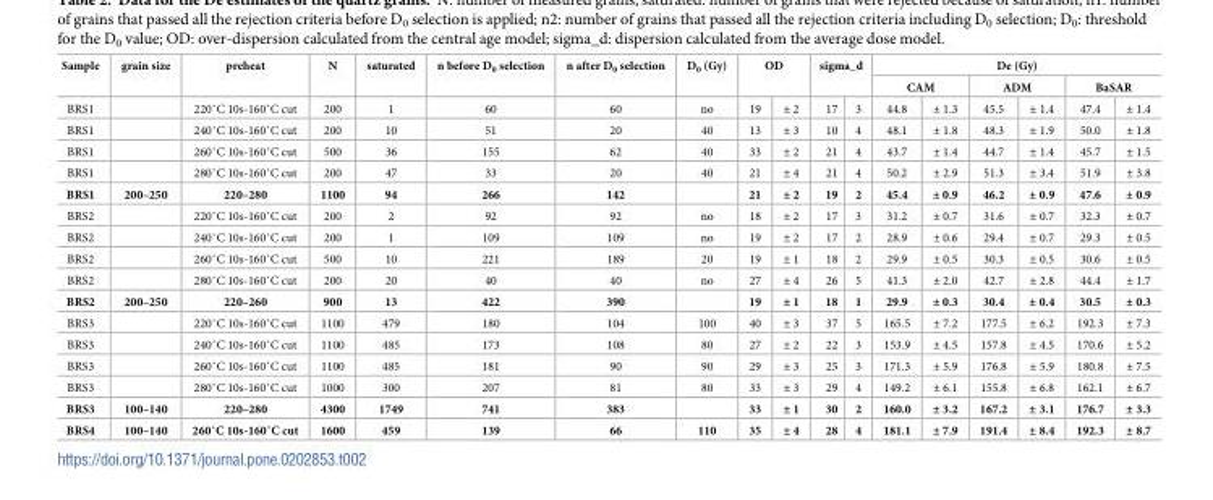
<table><thead><tr><td rowspan="3">Sample BRS1</td><td rowspan="3">grain size</td><td rowspan="3">preheat 220˚C 10s-160˚C cut</td><td rowspan="3">N 200</td><td rowspan="3">saturated 1</td><td rowspan="3">n before D<sub>0</sub> selection 60</td><td rowspan="3">n after D<sub>0</sub> selection 60</td><td rowspan="3">D<sub>0</sub> (Gy) no</td><td rowspan="2" colspan="2">OD</td><td rowspan="2" colspan="2">sigma_d</td><td colspan="6">De (Gy)</td></tr><tr><td colspan="2">CAM</td><td colspan="2">ADM</td><td colspan="2">BaSAR</td></tr><tr><td>19</td><td>± 2</td><td>17</td><td>3</td><td>44.8</td><td>± 1.3</td><td>45.5</td><td>± 1.4</td><td>47.4</td><td>± 1.4</td></tr></thead><tbody><tr><td>BRS1</td><td></td><td>240˚C 10s-160˚C cut</td><td>200</td><td>10</td><td>51</td><td>20</td><td>40</td><td>13</td><td>± 3</td><td>10</td><td>4</td><td>48.1</td><td>± 1.8</td><td>48.3</td><td>± 1.9</td><td>50.0</td><td>± 1.8</td></tr><tr><td>BRS1</td><td></td><td>260˚C 10s-160˚C cut</td><td>500</td><td>36</td><td>155</td><td>62</td><td>40</td><td>33</td><td>± 2</td><td>21</td><td>4</td><td>43.7</td><td>± 1.4</td><td>44.7</td><td>± 1.4</td><td>45.7</td><td>± 1.5</td></tr><tr><td>BRS1</td><td></td><td>280˚C 10s-160˚C cut</td><td>200</td><td>47</td><td>33</td><td>20</td><td>40</td><td>21</td><td>± 4</td><td>21</td><td>4</td><td>50.2</td><td>± 2.9</td><td>51.3</td><td>± 3.4</td><td>51.9</td><td>± 3.8</td></tr><tr><td>BRS1</td><td>200–250</td><td>220–280</td><td>1100</td><td>94</td><td>266</td><td>142</td><td></td><td>21</td><td>± 2</td><td>19</td><td>2</td><td>45.4</td><td>± 0.9</td><td>46.2</td><td>± 0.9</td><td>47.6</td><td>± 0.9</td></tr><tr><td>BRS2</td><td></td><td>220˚C 10s-160˚C cut</td><td>200</td><td>2</td><td>92</td><td>92</td><td>no</td><td>18</td><td>± 2</td><td>17</td><td>3</td><td>31.2</td><td>± 0.7</td><td>31.6</td><td>± 0.7</td><td>32.3</td><td>± 0.7</td></tr><tr><td>BRS2</td><td></td><td>240˚C 10s-160˚C cut</td><td>200</td><td>1</td><td>109</td><td>109</td><td>no</td><td>19</td><td>± 2</td><td>17</td><td>2</td><td>28.9</td><td>± 0.6</td><td>29.4</td><td>± 0.7</td><td>29.3</td><td>± 0.5</td></tr><tr><td>BRS2</td><td></td><td>260˚C 10s-160˚C cut</td><td>500</td><td>10</td><td>221</td><td>189</td><td>20</td><td>19</td><td>± 1</td><td>18</td><td>2</td><td>29.9</td><td>± 0.5</td><td>30.3</td><td>± 0.5</td><td>30.6</td><td>± 0.5</td></tr><tr><td>BRS2</td><td></td><td>280˚C 10s-160˚C cut</td><td>200</td><td>20</td><td>40</td><td>40</td><td>no</td><td>27</td><td>± 4</td><td>26</td><td>5</td><td>41.3</td><td>± 2.0</td><td>42.7</td><td>± 2.8</td><td>44.4</td><td>± 1.7</td></tr><tr><td>BRS2</td><td>200–250</td><td>220–260</td><td>900</td><td>13</td><td>422</td><td>390</td><td></td><td>19</td><td>± 1</td><td>18</td><td>1</td><td>29.9</td><td>± 0.3</td><td>30.4</td><td>± 0.4</td><td>30.5</td><td>± 0.3</td></tr><tr><td>BRS3</td><td></td><td>220˚C 10s-160˚C cut</td><td>1100</td><td>479</td><td>180</td><td>104</td><td>100</td><td>40</td><td>± 3</td><td>37</td><td>5</td><td>165.5</td><td>± 7.2</td><td>177.5</td><td>± 6.2</td><td>192.3</td><td>± 7.3</td></tr><tr><td>BRS3</td><td></td><td>240˚C 10s-160˚C cut</td><td>1100</td><td>485</td><td>173</td><td>108</td><td>80</td><td>27</td><td>± 2</td><td>22</td><td>3</td><td>153.9</td><td>± 4.5</td><td>157.8</td><td>± 4.5</td><td>170.6</td><td>± 5.2</td></tr><tr><td>BRS3</td><td></td><td>260˚C 10s-160˚C cut</td><td>1100</td><td>485</td><td>181</td><td>90</td><td>90</td><td>29</td><td>± 3</td><td>25</td><td>3</td><td>171.3</td><td>± 5.9</td><td>176.8</td><td>± 5.9</td><td>180.8</td><td>± 7.5</td></tr><tr><td>BRS3</td><td></td><td>280˚C 10s-160˚C cut</td><td>1000</td><td>300</td><td>207</td><td>81</td><td>80</td><td>33</td><td>± 3</td><td>29</td><td>4</td><td>149.2</td><td>± 6.1</td><td>155.8</td><td>± 6.8</td><td>162.1</td><td>± 6.7</td></tr><tr><td>BRS3</td><td>100–140</td><td>220–280</td><td>4300</td><td>1749</td><td>741</td><td>383</td><td></td><td>33</td><td>± 1</td><td>30</td><td>2</td><td>160.0</td><td>± 3.2</td><td>167.2</td><td>± 3.1</td><td>176.7</td><td>± 3.3</td></tr><tr><td>BRS4</td><td>100–140</td><td>260˚C 10s-160˚C cut</td><td>1600</td><td>459</td><td>139</td><td>66</td><td>110</td><td>35</td><td>± 4</td><td>28</td><td>4</td><td>181.1</td><td>± 7.9</td><td>191.4</td><td>± 8.4</td><td>192.3</td><td>± 8.7</td></tr></tbody></table>